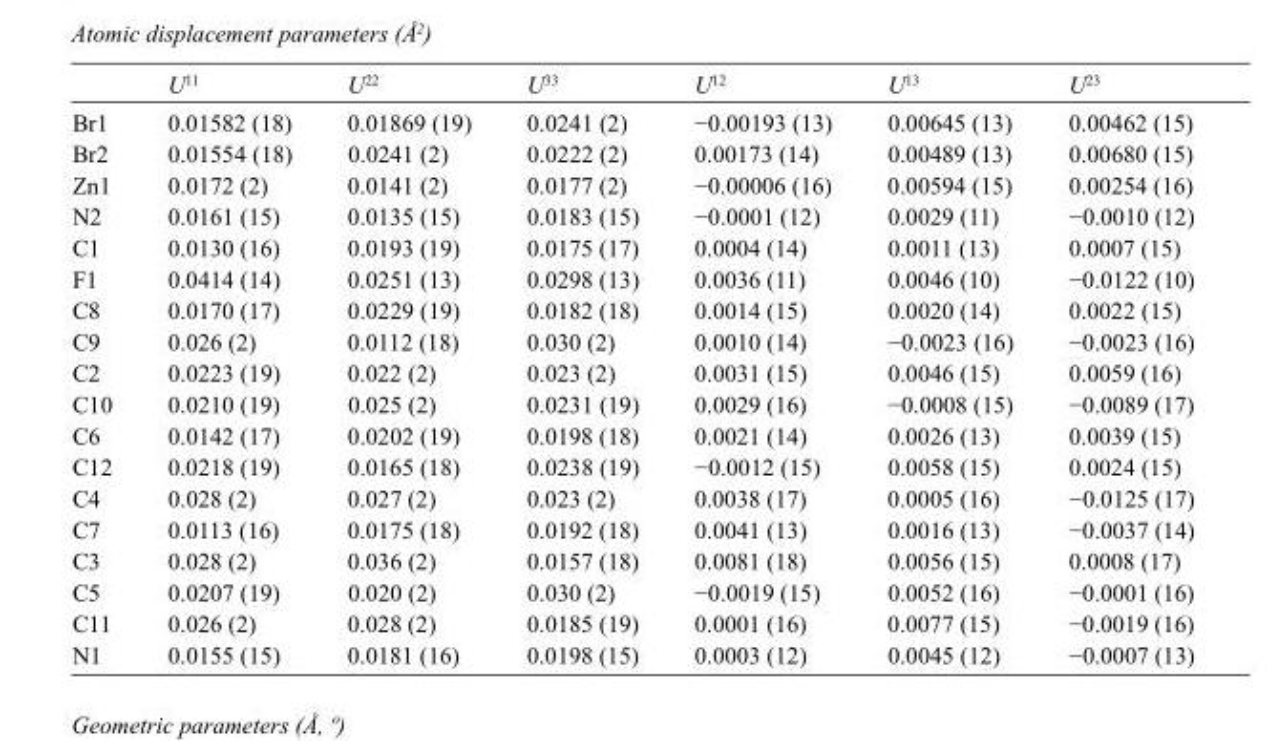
<table><thead><tr><td></td><td>U<sup>11</sup></td><td>U<sup>22</sup></td><td>U<sup>33</sup></td><td>U<sup>12</sup></td><td>U<sup>13</sup></td><td>U<sup>23</sup></td></tr></thead><tbody><tr><td>Br1</td><td>0.01582 (18)</td><td>0.01869 (19)</td><td>0.0241 (2)</td><td>−0.00193 (13)</td><td>0.00645 (13)</td><td>0.00462 (15)</td></tr><tr><td>Br2</td><td>0.01554 (18)</td><td>0.0241 (2)</td><td>0.0222 (2)</td><td>0.00173 (14)</td><td>0.00489 (13)</td><td>0.00680 (15)</td></tr><tr><td>Zn1</td><td>0.0172 (2)</td><td>0.0141 (2)</td><td>0.0177 (2)</td><td>−0.00006 (16)</td><td>0.00594 (15)</td><td>0.00254 (16)</td></tr><tr><td>N2</td><td>0.0161 (15)</td><td>0.0135 (15)</td><td>0.0183 (15)</td><td>−0.0001 (12)</td><td>0.0029 (11)</td><td>−0.0010 (12)</td></tr><tr><td>C1</td><td>0.0130 (16)</td><td>0.0193 (19)</td><td>0.0175 (17)</td><td>0.0004 (14)</td><td>0.0011 (13)</td><td>0.0007 (15)</td></tr><tr><td>F1</td><td>0.0414 (14)</td><td>0.0251 (13)</td><td>0.0298 (13)</td><td>0.0036 (11)</td><td>0.0046 (10)</td><td>−0.0122 (10)</td></tr><tr><td>C8</td><td>0.0170 (17)</td><td>0.0229 (19)</td><td>0.0182 (18)</td><td>0.0014 (15)</td><td>0.0020 (14)</td><td>0.0022 (15)</td></tr><tr><td>C9</td><td>0.026 (2)</td><td>0.0112 (18)</td><td>0.030 (2)</td><td>0.0010 (14)</td><td>−0.0023 (16)</td><td>−0.0023 (16)</td></tr><tr><td>C2</td><td>0.0223 (19)</td><td>0.022 (2)</td><td>0.023 (2)</td><td>0.0031 (15)</td><td>0.0046 (15)</td><td>0.0059 (16)</td></tr><tr><td>C10</td><td>0.0210 (19)</td><td>0.025 (2)</td><td>0.0231 (19)</td><td>0.0029 (16)</td><td>−0.0008 (15)</td><td>−0.0089 (17)</td></tr><tr><td>C6</td><td>0.0142 (17)</td><td>0.0202 (19)</td><td>0.0198 (18)</td><td>0.0021 (14)</td><td>0.0026 (13)</td><td>0.0039 (15)</td></tr><tr><td>C12</td><td>0.0218 (19)</td><td>0.0165 (18)</td><td>0.0238 (19)</td><td>−0.0012 (15)</td><td>0.0058 (15)</td><td>0.0024 (15)</td></tr><tr><td>C4</td><td>0.028 (2)</td><td>0.027 (2)</td><td>0.023 (2)</td><td>0.0038 (17)</td><td>0.0005 (16)</td><td>−0.0125 (17)</td></tr><tr><td>C7</td><td>0.0113 (16)</td><td>0.0175 (18)</td><td>0.0192 (18)</td><td>0.0041 (13)</td><td>0.0016 (13)</td><td>−0.0037 (14)</td></tr><tr><td>C3</td><td>0.028 (2)</td><td>0.036 (2)</td><td>0.0157 (18)</td><td>0.0081 (18)</td><td>0.0056 (15)</td><td>0.0008 (17)</td></tr><tr><td>C5</td><td>0.0207 (19)</td><td>0.020 (2)</td><td>0.030 (2)</td><td>−0.0019 (15)</td><td>0.0052 (16)</td><td>−0.0001 (16)</td></tr><tr><td>C11</td><td>0.026 (2)</td><td>0.028 (2)</td><td>0.0185 (19)</td><td>0.0001 (16)</td><td>0.0077 (15)</td><td>−0.0019 (16)</td></tr><tr><td>N1</td><td>0.0155 (15)</td><td>0.0181 (16)</td><td>0.0198 (15)</td><td>0.0003 (12)</td><td>0.0045 (12)</td><td>−0.0007 (13)</td></tr></tbody></table>